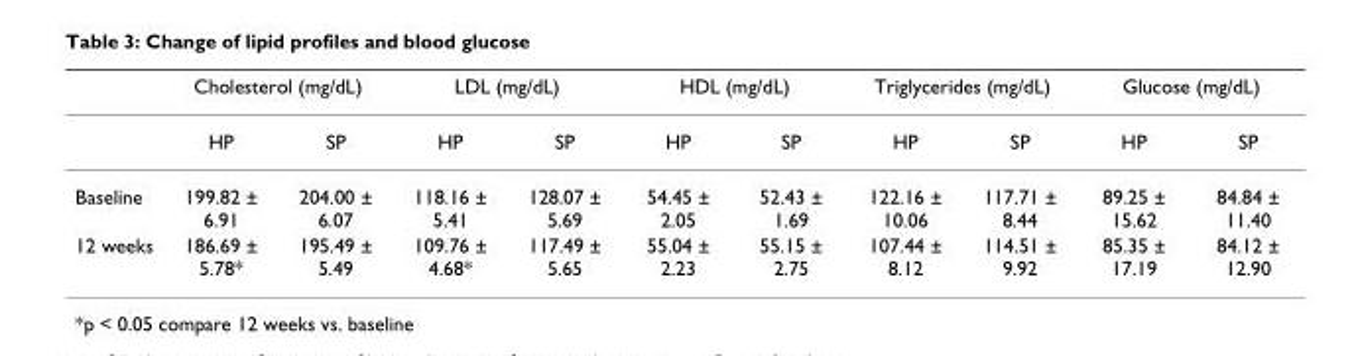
<table><thead><tr><td rowspan="2"></td><td colspan="2">Cholesterol (mg/dL)</td><td colspan="2">LDL (mg/dL)</td><td colspan="2">HDL (mg/dL)</td><td colspan="2">Triglycerides (mg/dL)</td><td colspan="2">Glucose (mg/dL)</td></tr><tr><td>HP</td><td>SP</td><td>HP</td><td>SP</td><td>HP</td><td>SP</td><td>HP</td><td>SP</td><td>HP</td><td>SP</td></tr></thead><tbody><tr><td>Baseline</td><td>199.82 ± 6.91</td><td>204.00 ± 6.07</td><td>118.16 ± 5.41</td><td>128.07 ± 5.69</td><td>54.45 ± 2.05</td><td>52.43 ± 1.69</td><td>122.16 ± 10.06</td><td>117.71 ± 8.44</td><td>89.25 ± 15.62</td><td>84.84 ± 11.40</td></tr><tr><td>12 weeks</td><td>186.69 ± 5.78*</td><td>195.49 ± 5.49</td><td>109.76 ± 4.68*</td><td>117.49 ± 5.65</td><td>55.04 ± 2.23</td><td>55.15 ± 2.75</td><td>107.44 ± 8.12</td><td>114.51 ± 9.92</td><td>85.35 ± 17.19</td><td>84.12 ± 12.90</td></tr></tbody></table>